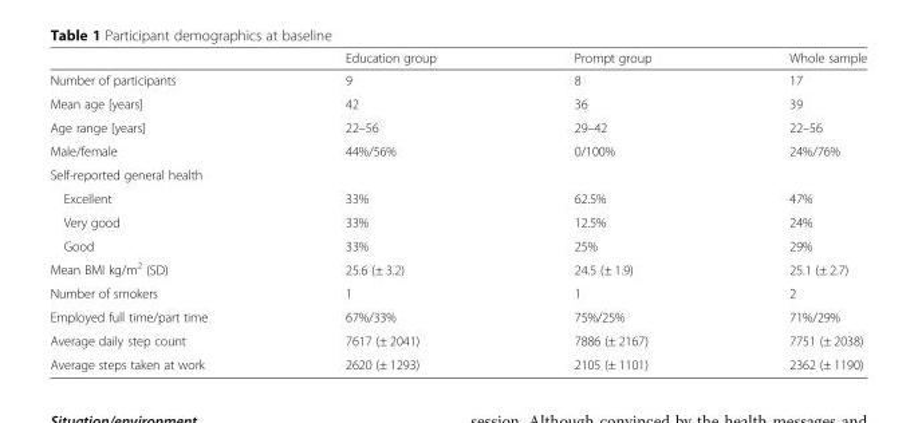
<table><thead><tr><td></td><td>Education group</td><td>Prompt group</td><td>Whole sample</td></tr></thead><tbody><tr><td>Number of participants</td><td>9</td><td>8</td><td>17</td></tr><tr><td>Mean age [years]</td><td>42</td><td>36</td><td>39</td></tr><tr><td>Age range [years]</td><td>22–56</td><td>29–42</td><td>22–56</td></tr><tr><td>Male/female</td><td>44%/56%</td><td>0/100%</td><td>24%/76%</td></tr><tr><td colspan="4">Self-reported general health</td></tr><tr><td>Excellent</td><td>33%</td><td>62.5%</td><td>47%</td></tr><tr><td>Very good</td><td>33%</td><td>12.5%</td><td>24%</td></tr><tr><td>Good</td><td>33%</td><td>25%</td><td>29%</td></tr><tr><td>Mean BMI kg/m<sup>2</sup> (SD)</td><td>25.6 (± 3.2)</td><td>24.5 (± 1.9)</td><td>25.1 (± 2.7)</td></tr><tr><td>Number of smokers</td><td>1</td><td>1</td><td>2</td></tr><tr><td>Employed full time/part time</td><td>67%/33%</td><td>75%/25%</td><td>71%/29%</td></tr><tr><td>Average daily step count</td><td>7617 (± 2041)</td><td>7886 (± 2167)</td><td>7751 (± 2038)</td></tr><tr><td>Average steps taken at work</td><td>2620 (± 1293)</td><td>2105 (± 1101)</td><td>2362 (± 1190)</td></tr></tbody></table>